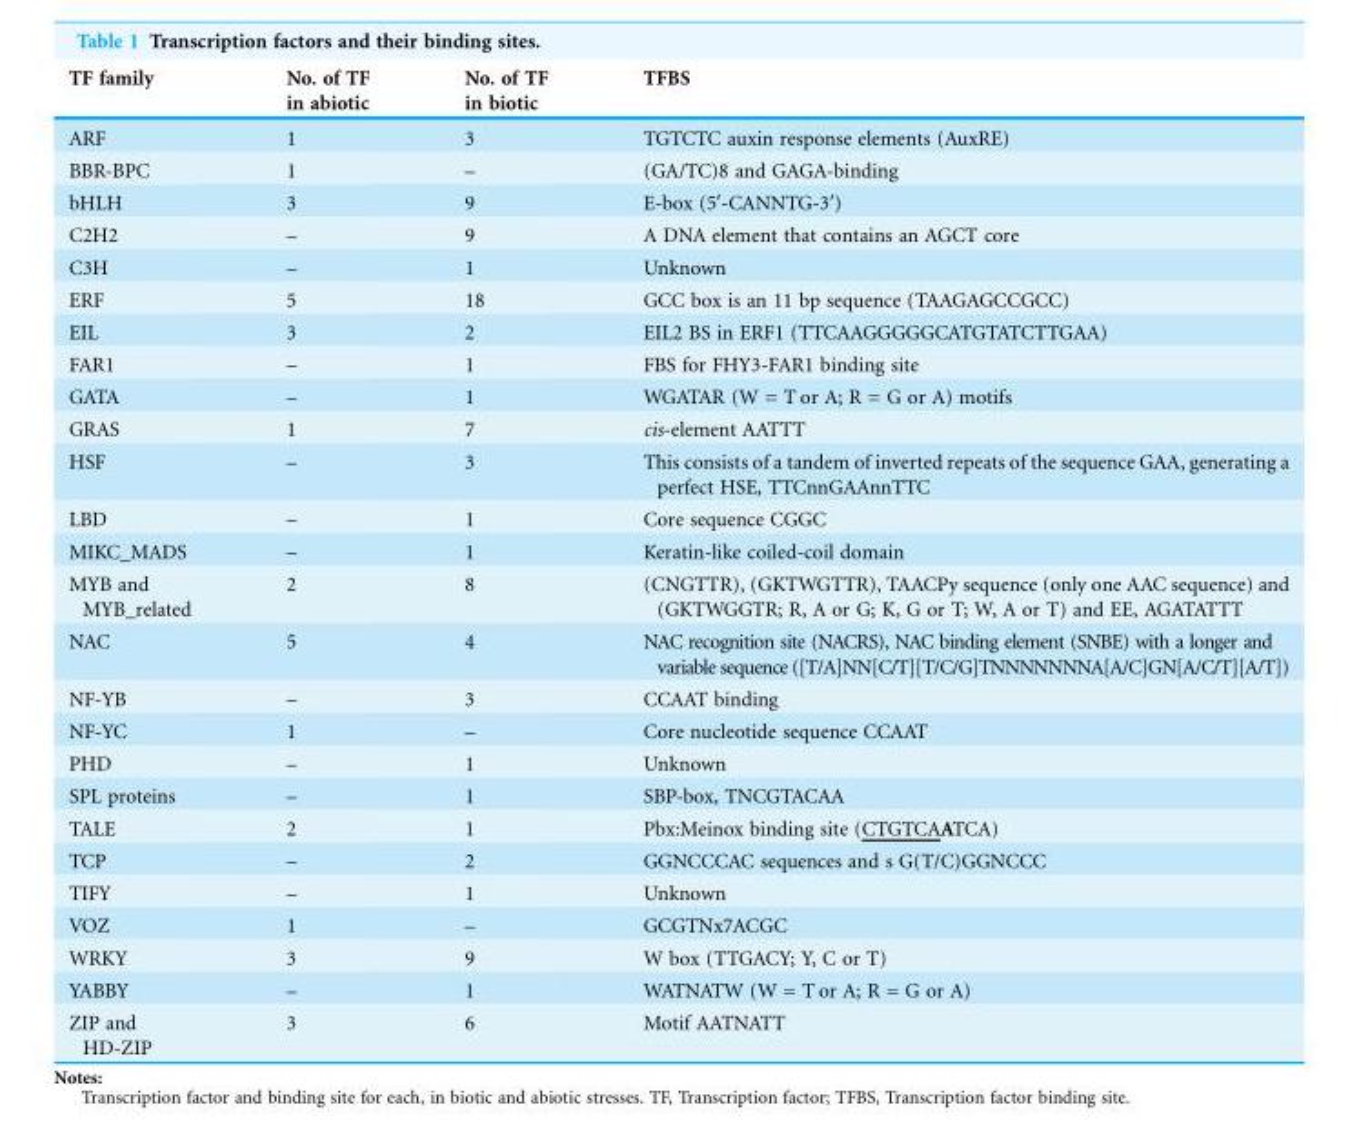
<table><thead><tr><td>TF family</td><td>No. of TF in abiotic</td><td>No. of TF in biotic</td><td>TFBS</td></tr></thead><tbody><tr><td>ARF</td><td>1</td><td>3</td><td>TGTCTC auxin response elements (AuxRE)</td></tr><tr><td>BBR-BPC</td><td>1</td><td>–</td><td>(GA/TC)8 and GAGA-binding</td></tr><tr><td>bHLH</td><td>3</td><td>9</td><td>E-box (5′-CANNTG-3′)</td></tr><tr><td>C2H2</td><td>–</td><td>9</td><td>A DNA element that contains an AGCT core</td></tr><tr><td>C3H</td><td>–</td><td>1</td><td>Unknown</td></tr><tr><td>ERF</td><td>5</td><td>18</td><td>GCC box is an 11 bp sequence (TAAGAGCCGCC)</td></tr><tr><td>EIL</td><td>3</td><td>2</td><td>EIL2 BS in ERF1 (TTCAAGGGGGCATGTATCTTGAA)</td></tr><tr><td>FAR1</td><td>–</td><td>1</td><td>FBS for FHY3-FAR1 binding site</td></tr><tr><td>GATA</td><td>–</td><td>1</td><td>WGATAR (W = T or A; R = G or A) motifs</td></tr><tr><td>GRAS</td><td>1</td><td>7</td><td>cis-element AATTT</td></tr><tr><td>HSF</td><td>–</td><td>3</td><td>This consists of a tandem of inverted repeats of the sequence GAA, generating a perfect HSE, TTCnnGAAnnTTC</td></tr><tr><td>LBD</td><td>–</td><td>1</td><td>Core sequence CGGC</td></tr><tr><td>MIKC_MADS</td><td>–</td><td>1</td><td>Keratin-like coiled-coil domain</td></tr><tr><td>MYB and MYB_related</td><td>2</td><td>8</td><td>(CNGTTR), (GKTWGTTR), TAACPy sequence (only one AAC sequence) and (GKTWGGTR; R, A or G; K, G or T; W, A or T) and EE, AGATATTT</td></tr><tr><td>NAC</td><td>5</td><td>4</td><td>NAC recognition site (NACRS), NAC binding element (SNBE) with a longer and variable sequence ([T/A]NN[C/T][T/C/G]TNNNNNNNA[A/C]GN[A/C/T][A/T])</td></tr><tr><td>NF-YB</td><td>–</td><td>3</td><td>CCAAT binding</td></tr><tr><td>NF-YC</td><td>1</td><td>–</td><td>Core nucleotide sequence CCAAT</td></tr><tr><td>PHD</td><td>–</td><td>1</td><td>Unknown</td></tr><tr><td>SPL proteins</td><td>–</td><td>1</td><td>SBP-box, TNCGTACAA</td></tr><tr><td>TALE</td><td>2</td><td>1</td><td>Pbx:Meinox binding site (CTGTCAATCA)</td></tr><tr><td>TCP</td><td>–</td><td>2</td><td>GGNCCCAC sequences and s G(T/C)GGNCCC</td></tr><tr><td>TIFY</td><td>–</td><td>1</td><td>Unknown</td></tr><tr><td>VOZ</td><td>1</td><td>–</td><td>GCGTNx7ACGC</td></tr><tr><td>WRKY</td><td>3</td><td>9</td><td>W box (TTGACY; Y, C or T)</td></tr><tr><td>YABBY</td><td>–</td><td>1</td><td>WATNATW (W = T or A; R = G or A)</td></tr><tr><td>ZIP and HD-ZIP</td><td>3</td><td>6</td><td>Motif AATNATT</td></tr></tbody></table>